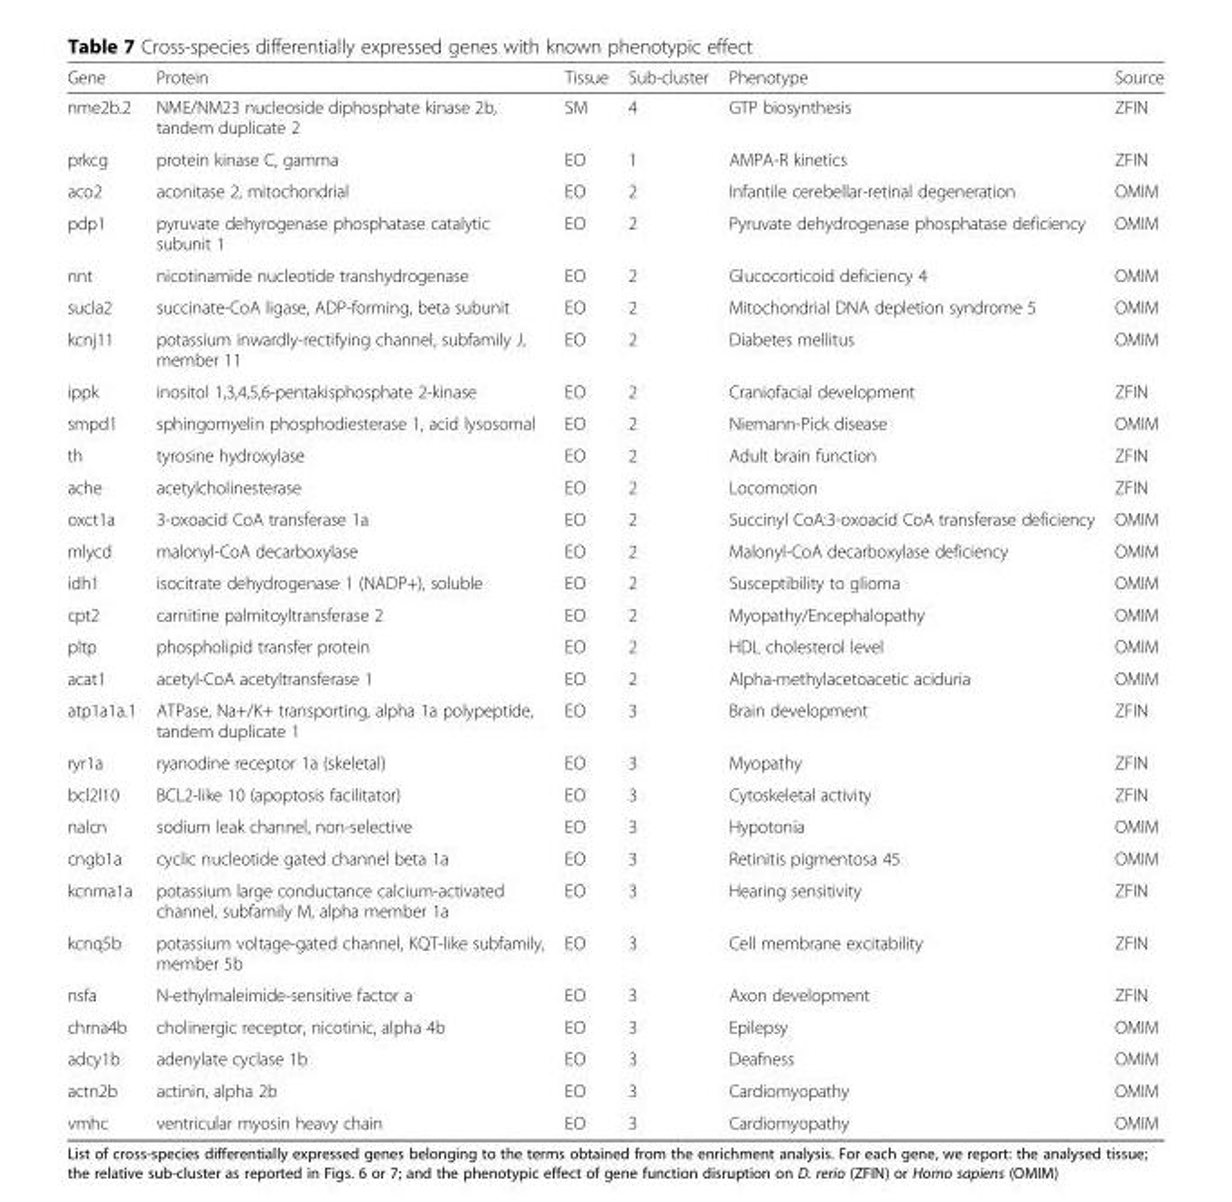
<table><thead><tr><td>Gene</td><td>Protein</td><td>Tissue</td><td>Sub-cluster</td><td>Phenotype</td><td>Source</td></tr></thead><tbody><tr><td>nme2b.2</td><td>NME/NM23 nucleoside diphosphate kinase 2b, tandem duplicate 2</td><td>SM</td><td>4</td><td>GTP biosynthesis</td><td>ZFIN</td></tr><tr><td>prkcg</td><td>protein kinase C, gamma</td><td>EO</td><td>1</td><td>AMPA-R kinetics</td><td>ZFIN</td></tr><tr><td>aco2</td><td>aconitase 2, mitochondrial</td><td>EO</td><td>2</td><td>Infantile cerebellar-retinal degeneration</td><td>OMIM</td></tr><tr><td>pdp1</td><td>pyruvate dehyrogenase phosphatase catalytic subunit 1</td><td>EO</td><td>2</td><td>Pyruvate dehydrogenase phosphatase deficiency</td><td>OMIM</td></tr><tr><td>nnt</td><td>nicotinamide nucleotide transhydrogenase</td><td>EO</td><td>2</td><td>Glucocorticoid deficiency 4</td><td>OMIM</td></tr><tr><td>sucla2</td><td>succinate-CoA ligase, ADP-forming, beta subunit</td><td>EO</td><td>2</td><td>Mitochondrial DNA depletion syndrome 5</td><td>OMIM</td></tr><tr><td>kcnj11</td><td>potassium inwardly-rectifying channel, subfamily J, member 11</td><td>EO</td><td>2</td><td>Diabetes mellitus</td><td>OMIM</td></tr><tr><td>ippk</td><td>inositol 1,3,4,5,6-pentakisphosphate 2-kinase</td><td>EO</td><td>2</td><td>Craniofacial development</td><td>ZFIN</td></tr><tr><td>smpd1</td><td>sphingomyelin phosphodiesterase 1, acid lysosomal</td><td>EO</td><td>2</td><td>Niemann-Pick disease</td><td>OMIM</td></tr><tr><td>th</td><td>tyrosine hydroxylase</td><td>EO</td><td>2</td><td>Adult brain function</td><td>ZFIN</td></tr><tr><td>ache</td><td>acetylcholinesterase</td><td>EO</td><td>2</td><td>Locomotion</td><td>ZFIN</td></tr><tr><td>oxct1a</td><td>3-oxoacid CoA transferase 1a</td><td>EO</td><td>2</td><td>Succinyl CoA:3-oxoacid CoA transferase deficiency</td><td>OMIM</td></tr><tr><td>mlycd</td><td>malonyl-CoA decarboxylase</td><td>EO</td><td>2</td><td>Malonyl-CoA decarboxylase deficiency</td><td>OMIM</td></tr><tr><td>idh1</td><td>isocitrate dehydrogenase 1 (NADP+), soluble</td><td>EO</td><td>2</td><td>Susceptibility to glioma</td><td>OMIM</td></tr><tr><td>cpt2</td><td>carnitine palmitoyltransferase 2</td><td>EO</td><td>2</td><td>Myopathy/Encephalopathy</td><td>OMIM</td></tr><tr><td>pltp</td><td>phospholipid transfer protein</td><td>EO</td><td>2</td><td>HDL cholesterol level</td><td>OMIM</td></tr><tr><td>acat1</td><td>acetyl-CoA acetyltransferase 1</td><td>EO</td><td>2</td><td>Alpha-methylacetoacetic aciduria</td><td>OMIM</td></tr><tr><td>atp1a1a.1</td><td>ATPase, Na+/K+ transporting, alpha 1a polypeptide, tandem duplicate 1</td><td>EO</td><td>3</td><td>Brain development</td><td>ZFIN</td></tr><tr><td>ryr1a</td><td>ryanodine receptor 1a (skeletal)</td><td>EO</td><td>3</td><td>Myopathy</td><td>ZFIN</td></tr><tr><td>bcl2l10</td><td>BCL2-like 10 (apoptosis facilitator)</td><td>EO</td><td>3</td><td>Cytoskeletal activity</td><td>ZFIN</td></tr><tr><td>nalcn</td><td>sodium leak channel, non-selective</td><td>EO</td><td>3</td><td>Hypotonia</td><td>OMIM</td></tr><tr><td>cngb1a</td><td>cyclic nucleotide gated channel beta 1a</td><td>EO</td><td>3</td><td>Retinitis pigmentosa 45</td><td>OMIM</td></tr><tr><td>kcnma1a</td><td>potassium large conductance calcium-activated channel, subfamily M, alpha member 1a</td><td>EO</td><td>3</td><td>Hearing sensitivity</td><td>ZFIN</td></tr><tr><td>kcnq5b</td><td>potassium voltage-gated channel, KQT-like subfamily, member 5b</td><td>EO</td><td>3</td><td>Cell membrane excitability</td><td>ZFIN</td></tr><tr><td>nsfa</td><td>N-ethylmaleimide-sensitive factor a</td><td>EO</td><td>3</td><td>Axon development</td><td>ZFIN</td></tr><tr><td>chrna4b</td><td>cholinergic receptor, nicotinic, alpha 4b</td><td>EO</td><td>3</td><td>Epilepsy</td><td>OMIM</td></tr><tr><td>adcy1b</td><td>adenylate cyclase 1b</td><td>EO</td><td>3</td><td>Deafness</td><td>OMIM</td></tr><tr><td>actn2b</td><td>actinin, alpha 2b</td><td>EO</td><td>3</td><td>Cardiomyopathy</td><td>OMIM</td></tr><tr><td>vmhc</td><td>ventricular myosin heavy chain</td><td>EO</td><td>3</td><td>Cardiomyopathy</td><td>OMIM</td></tr></tbody></table>